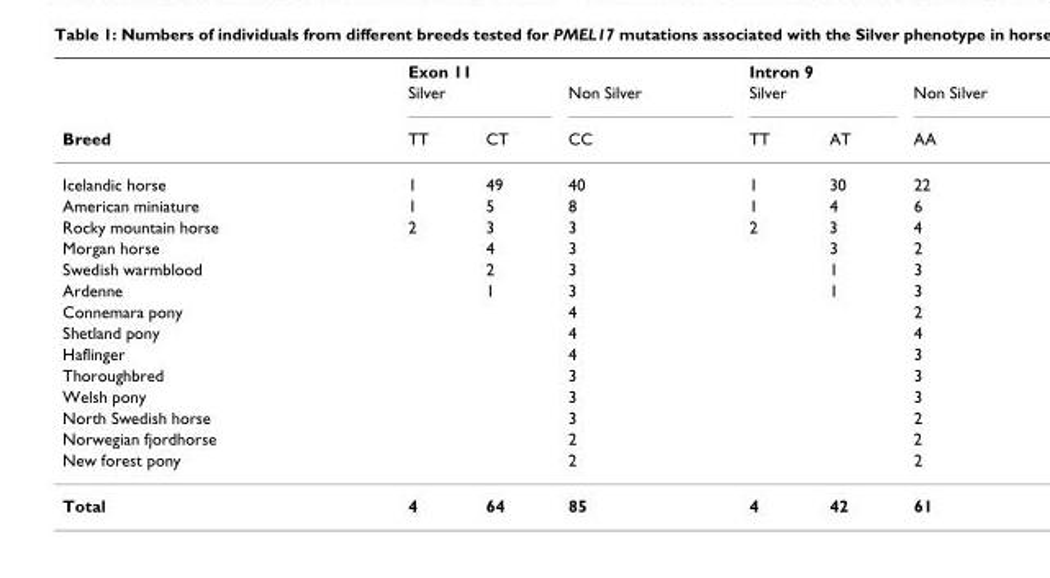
<table><thead><tr><td rowspan="3">Breed</td><td rowspan="2" colspan="2">Exon 11 Silver</td><td rowspan="3">Non Silver CC</td><td rowspan="2" colspan="2">Intron 9 Silver</td><td rowspan="3">Non Silver AA</td></tr><tr></tr><tr><td>TT</td><td>CT</td><td>TT</td><td>AT</td></tr></thead><tbody><tr><td>Icelandic horse</td><td>1</td><td>49</td><td>40</td><td>1</td><td>30</td><td>22</td></tr><tr><td>American miniature</td><td>1</td><td>5</td><td>8</td><td>1</td><td>4</td><td>6</td></tr><tr><td>Rocky mountain horse</td><td>2</td><td>3</td><td>3</td><td>2</td><td>3</td><td>4</td></tr><tr><td>Morgan horse</td><td></td><td>4</td><td>3</td><td></td><td>3</td><td>2</td></tr><tr><td>Swedish warmblood</td><td></td><td>2</td><td>3</td><td></td><td>1</td><td>3</td></tr><tr><td>Ardenne</td><td></td><td>1</td><td>3</td><td></td><td>1</td><td>3</td></tr><tr><td>Connemara pony</td><td></td><td></td><td>4</td><td></td><td></td><td>2</td></tr><tr><td>Shetland pony</td><td></td><td></td><td>4</td><td></td><td></td><td>4</td></tr><tr><td>Haflinger</td><td></td><td></td><td>4</td><td></td><td></td><td>3</td></tr><tr><td>Thoroughbred</td><td></td><td></td><td>3</td><td></td><td></td><td>3</td></tr><tr><td>Welsh pony</td><td></td><td></td><td>3</td><td></td><td></td><td>3</td></tr><tr><td>North Swedish horse</td><td></td><td></td><td>3</td><td></td><td></td><td>2</td></tr><tr><td>Norwegian fjordhorse</td><td></td><td></td><td>2</td><td></td><td></td><td>2</td></tr><tr><td>New forest pony</td><td></td><td></td><td>2</td><td></td><td></td><td>2</td></tr><tr><td>Total</td><td>4</td><td>64</td><td>85</td><td>4</td><td>42</td><td>61</td></tr></tbody></table>